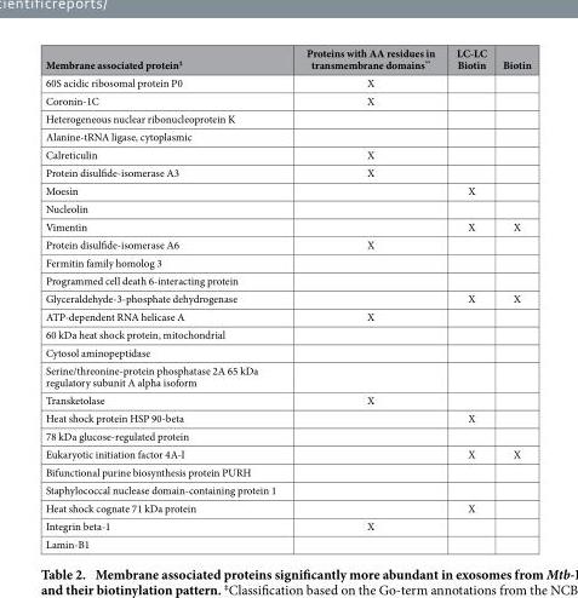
<table><thead><tr><td>Membrane associated protein‡</td><td>Proteins with AA residues in transmembrane domains**</td><td>LC-LC Biotin</td><td>Biotin</td></tr></thead><tbody><tr><td>60S acidic ribosomal protein P0</td><td>X</td><td></td><td></td></tr><tr><td>Coronin-1C</td><td>X</td><td></td><td></td></tr><tr><td colspan="4">Heterogeneous nuclear ribonucleoprotein K</td></tr><tr><td colspan="4">Alanine-tRNA ligase, cytoplasmic</td></tr><tr><td>Calreticulin</td><td>X</td><td></td><td></td></tr><tr><td>Protein disulfide-isomerase A3</td><td>X</td><td></td><td></td></tr><tr><td>Moesin</td><td></td><td>X</td><td></td></tr><tr><td colspan="4">Nucleolin</td></tr><tr><td>Vimentin</td><td></td><td>X</td><td>X</td></tr><tr><td>Protein disulfide-isomerase A6</td><td>X</td><td></td><td></td></tr><tr><td colspan="4">Fermitin family homolog 3</td></tr><tr><td colspan="4">Programmed cell death 6-interacting protein</td></tr><tr><td>Glyceraldehyde-3-phosphate dehydrogenase</td><td></td><td>X</td><td>X</td></tr><tr><td>ATP-dependent RNA helicase A</td><td>X</td><td></td><td></td></tr><tr><td colspan="4">60 kDa heat shock protein, mitochondrial</td></tr><tr><td colspan="4">Cytosol aminopeptidase</td></tr><tr><td colspan="4">Serine/threonine-protein phosphatase 2A 65 kDa regulatory subunit A alpha isoform</td></tr><tr><td>Transketolase</td><td>X</td><td></td><td></td></tr><tr><td>Heat shock protein HSP 90-beta</td><td></td><td>X</td><td></td></tr><tr><td colspan="4">78 kDa glucose-regulated protein</td></tr><tr><td>Eukaryotic initiation factor 4A-I</td><td></td><td>X</td><td>X</td></tr><tr><td colspan="4">Bifunctional purine biosynthesis protein PURH</td></tr><tr><td colspan="4">Staphylococcal nuclease domain-containing protein 1</td></tr><tr><td>Heat shock cognate 71 kDa protein</td><td></td><td>X</td><td></td></tr><tr><td>Integrin beta-1</td><td>X</td><td></td><td></td></tr><tr><td>Lamin-B1</td><td></td><td></td><td></td></tr></tbody></table>